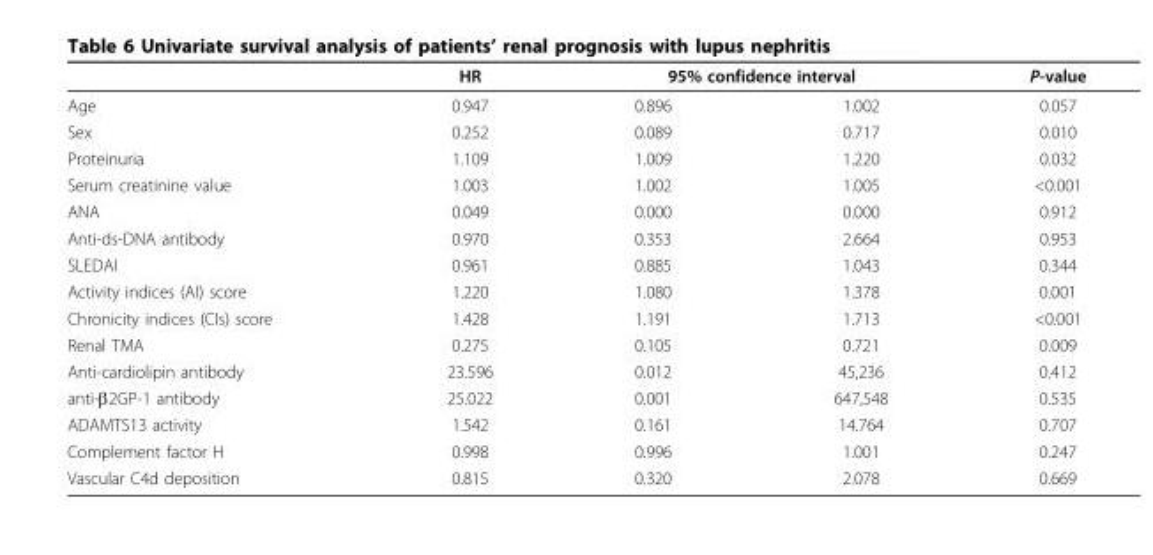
<table><thead><tr><td rowspan="2">Age</td><td rowspan="2">HR 0.947</td><td colspan="2">95% confidence interval</td><td rowspan="2">P-value 0.057</td></tr><tr><td>0.896</td><td>1.002</td></tr></thead><tbody><tr><td>Sex</td><td>0.252</td><td>0.089</td><td>0.717</td><td>0.010</td></tr><tr><td>Proteinuria</td><td>1.109</td><td>1.009</td><td>1.220</td><td>0.032</td></tr><tr><td>Serum creatinine value</td><td>1.003</td><td>1.002</td><td>1.005</td><td>&lt;0.001</td></tr><tr><td>ANA</td><td>0.049</td><td>0.000</td><td>0.000</td><td>0.912</td></tr><tr><td>Anti-ds-DNA antibody</td><td>0.970</td><td>0.353</td><td>2.664</td><td>0.953</td></tr><tr><td>SLEDAI</td><td>0.961</td><td>0.885</td><td>1.043</td><td>0.344</td></tr><tr><td>Activity indices (AI) score</td><td>1.220</td><td>1.080</td><td>1.378</td><td>0.001</td></tr><tr><td>Chronicity indices (CIs) score</td><td>1.428</td><td>1.191</td><td>1.713</td><td>&lt;0.001</td></tr><tr><td>Renal TMA</td><td>0.275</td><td>0.105</td><td>0.721</td><td>0.009</td></tr><tr><td>Anti-cardiolipin antibody</td><td>23.596</td><td>0.012</td><td>45,236</td><td>0.412</td></tr><tr><td>anti-β2GP-1 antibody</td><td>25.022</td><td>0.001</td><td>647,548</td><td>0.535</td></tr><tr><td>ADAMTS13 activity</td><td>1.542</td><td>0.161</td><td>14.764</td><td>0.707</td></tr><tr><td>Complement factor H</td><td>0.998</td><td>0.996</td><td>1.001</td><td>0.247</td></tr><tr><td>Vascular C4d deposition</td><td>0.815</td><td>0.320</td><td>2.078</td><td>0.669</td></tr></tbody></table>